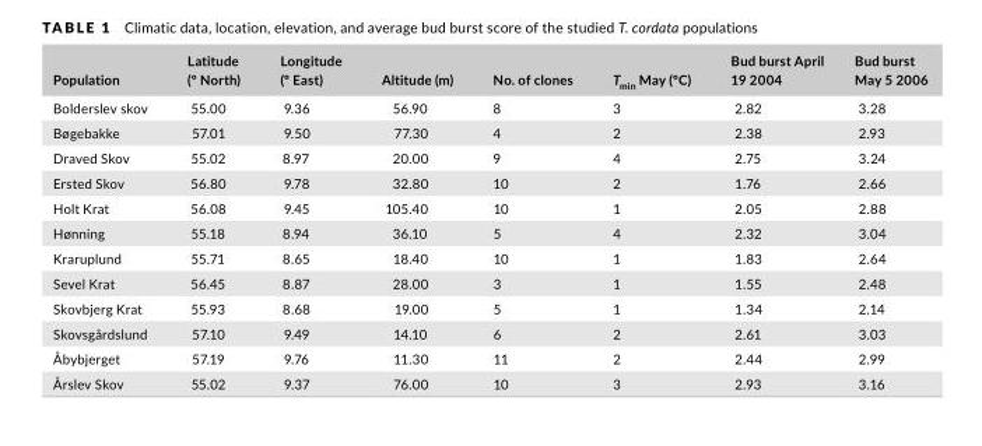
<table><thead><tr><td>Population</td><td>Latitude (º North)</td><td>Longitude (º East)</td><td>Altitude (m)</td><td>No. of clones</td><td>T<sub>min</sub> May (ºC)</td><td>Bud burst April 19 2004</td><td>Bud burst May 5 2006</td></tr></thead><tbody><tr><td>Bolderslev skov</td><td>55.00</td><td>9.36</td><td>56.90</td><td>8</td><td>3</td><td>2.82</td><td>3.28</td></tr><tr><td>Bøgebakke</td><td>57.01</td><td>9.50</td><td>77.30</td><td>4</td><td>2</td><td>2.38</td><td>2.93</td></tr><tr><td>Draved Skov</td><td>55.02</td><td>8.97</td><td>20.00</td><td>9</td><td>4</td><td>2.75</td><td>3.24</td></tr><tr><td>Ersted Skov</td><td>56.80</td><td>9.78</td><td>32.80</td><td>10</td><td>2</td><td>1.76</td><td>2.66</td></tr><tr><td>Holt Krat</td><td>56.08</td><td>9.45</td><td>105.40</td><td>10</td><td>1</td><td>2.05</td><td>2.88</td></tr><tr><td>Hønning</td><td>55.18</td><td>8.94</td><td>36.10</td><td>5</td><td>4</td><td>2.32</td><td>3.04</td></tr><tr><td>Kraruplund</td><td>55.71</td><td>8.65</td><td>18.40</td><td>10</td><td>1</td><td>1.83</td><td>2.64</td></tr><tr><td>Sevel Krat</td><td>56.45</td><td>8.87</td><td>28.00</td><td>3</td><td>1</td><td>1.55</td><td>2.48</td></tr><tr><td>Skovbjerg Krat</td><td>55.93</td><td>8.68</td><td>19.00</td><td>5</td><td>1</td><td>1.34</td><td>2.14</td></tr><tr><td>Skovsgårdslund</td><td>57.10</td><td>9.49</td><td>14.10</td><td>6</td><td>2</td><td>2.61</td><td>3.03</td></tr><tr><td>Åbybjerget</td><td>57.19</td><td>9.76</td><td>11.30</td><td>11</td><td>2</td><td>2.44</td><td>2.99</td></tr><tr><td>Årslev Skov</td><td>55.02</td><td>9.37</td><td>76.00</td><td>10</td><td>3</td><td>2.93</td><td>3.16</td></tr></tbody></table>